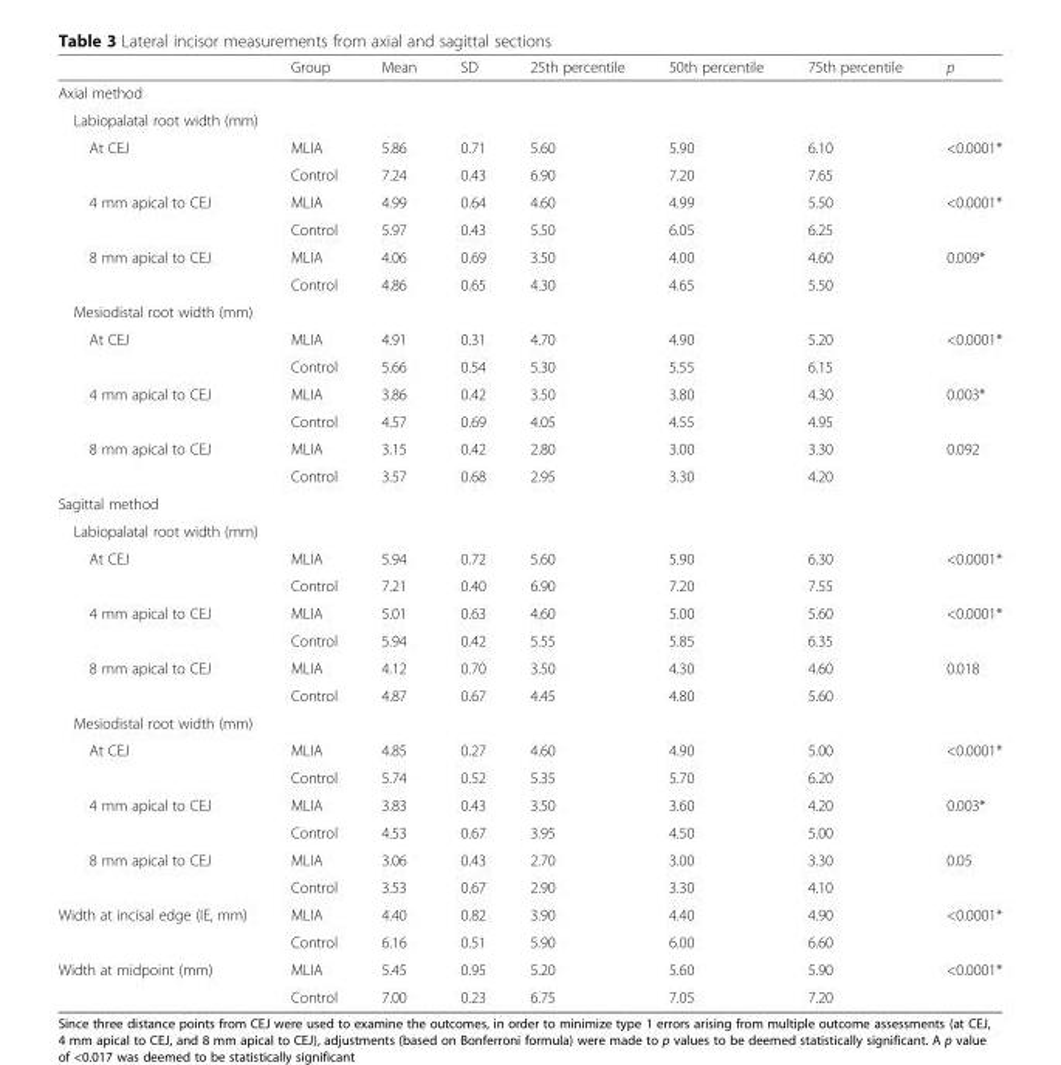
<table><thead><tr><td></td><td>Group</td><td>Mean</td><td>SD</td><td>25th percentile</td><td>50th percentile</td><td>75th percentile</td><td>p</td></tr></thead><tbody><tr><td colspan="8">Axial method</td></tr><tr><td colspan="8">Labiopalatal root width (mm)</td></tr><tr><td rowspan="2">At CEJ</td><td>MLIA</td><td>5.86</td><td>0.71</td><td>5.60</td><td>5.90</td><td>6.10</td><td rowspan="2">&lt;0.0001*</td></tr><tr><td>Control</td><td>7.24</td><td>0.43</td><td>6.90</td><td>7.20</td><td>7.65</td></tr><tr><td rowspan="2">4 mm apical to CEJ</td><td>MLIA</td><td>4.99</td><td>0.64</td><td>4.60</td><td>4.99</td><td>5.50</td><td rowspan="2">&lt;0.0001*</td></tr><tr><td>Control</td><td>5.97</td><td>0.43</td><td>5.50</td><td>6.05</td><td>6.25</td></tr><tr><td rowspan="2">8 mm apical to CEJ</td><td>MLIA</td><td>4.06</td><td>0.69</td><td>3.50</td><td>4.00</td><td>4.60</td><td rowspan="2">0.009*</td></tr><tr><td>Control</td><td>4.86</td><td>0.65</td><td>4.30</td><td>4.65</td><td>5.50</td></tr><tr><td colspan="8">Mesiodistal root width (mm)</td></tr><tr><td rowspan="2">At CEJ</td><td>MLIA</td><td>4.91</td><td>0.31</td><td>4.70</td><td>4.90</td><td>5.20</td><td rowspan="2">&lt;0.0001*</td></tr><tr><td>Control</td><td>5.66</td><td>0.54</td><td>5.30</td><td>5.55</td><td>6.15</td></tr><tr><td rowspan="2">4 mm apical to CEJ</td><td>MLIA</td><td>3.86</td><td>0.42</td><td>3.50</td><td>3.80</td><td>4.30</td><td rowspan="2">0.003*</td></tr><tr><td>Control</td><td>4.57</td><td>0.69</td><td>4.05</td><td>4.55</td><td>4.95</td></tr><tr><td rowspan="2">8 mm apical to CEJ</td><td>MLIA</td><td>3.15</td><td>0.42</td><td>2.80</td><td>3.00</td><td>3.30</td><td rowspan="2">0.092</td></tr><tr><td>Control</td><td>3.57</td><td>0.68</td><td>2.95</td><td>3.30</td><td>4.20</td></tr><tr><td colspan="8">Sagittal method</td></tr><tr><td colspan="8">Labiopalatal root width (mm)</td></tr><tr><td rowspan="2">At CEJ</td><td>MLIA</td><td>5.94</td><td>0.72</td><td>5.60</td><td>5.90</td><td>6.30</td><td rowspan="2">&lt;0.0001*</td></tr><tr><td>Control</td><td>7.21</td><td>0.40</td><td>6.90</td><td>7.20</td><td>7.55</td></tr><tr><td rowspan="2">4 mm apical to CEJ</td><td>MLIA</td><td>5.01</td><td>0.63</td><td>4.60</td><td>5.00</td><td>5.60</td><td rowspan="2">&lt;0.0001*</td></tr><tr><td>Control</td><td>5.94</td><td>0.42</td><td>5.55</td><td>5.85</td><td>6.35</td></tr><tr><td rowspan="2">8 mm apical to CEJ</td><td>MLIA</td><td>4.12</td><td>0.70</td><td>3.50</td><td>4.30</td><td>4.60</td><td rowspan="2">0.018</td></tr><tr><td>Control</td><td>4.87</td><td>0.67</td><td>4.45</td><td>4.80</td><td>5.60</td></tr><tr><td colspan="8">Mesiodistal root width (mm)</td></tr><tr><td rowspan="2">At CEJ</td><td>MLIA</td><td>4.85</td><td>0.27</td><td>4.60</td><td>4.90</td><td>5.00</td><td rowspan="2">&lt;0.0001*</td></tr><tr><td>Control</td><td>5.74</td><td>0.52</td><td>5.35</td><td>5.70</td><td>6.20</td></tr><tr><td rowspan="2">4 mm apical to CEJ</td><td>MLIA</td><td>3.83</td><td>0.43</td><td>3.50</td><td>3.60</td><td>4.20</td><td rowspan="2">0.003*</td></tr><tr><td>Control</td><td>4.53</td><td>0.67</td><td>3.95</td><td>4.50</td><td>5.00</td></tr><tr><td rowspan="2">8 mm apical to CEJ</td><td>MLIA</td><td>3.06</td><td>0.43</td><td>2.70</td><td>3.00</td><td>3.30</td><td>0.05</td></tr><tr><td>Control</td><td>3.53</td><td>0.67</td><td>2.90</td><td>3.30</td><td>4.10</td><td></td></tr><tr><td rowspan="2">Width at incisal edge (IE, mm)</td><td>MLIA</td><td>4.40</td><td>0.82</td><td>3.90</td><td>4.40</td><td>4.90</td><td>&lt;0.0001*</td></tr><tr><td>Control</td><td>6.16</td><td>0.51</td><td>5.90</td><td>6.00</td><td>6.60</td><td></td></tr><tr><td rowspan="2">Width at midpoint (mm)</td><td>MLIA</td><td>5.45</td><td>0.95</td><td>5.20</td><td>5.60</td><td>5.90</td><td>&lt;0.0001*</td></tr><tr><td>Control</td><td>7.00</td><td>0.23</td><td>6.75</td><td>7.05</td><td>7.20</td><td></td></tr></tbody></table>